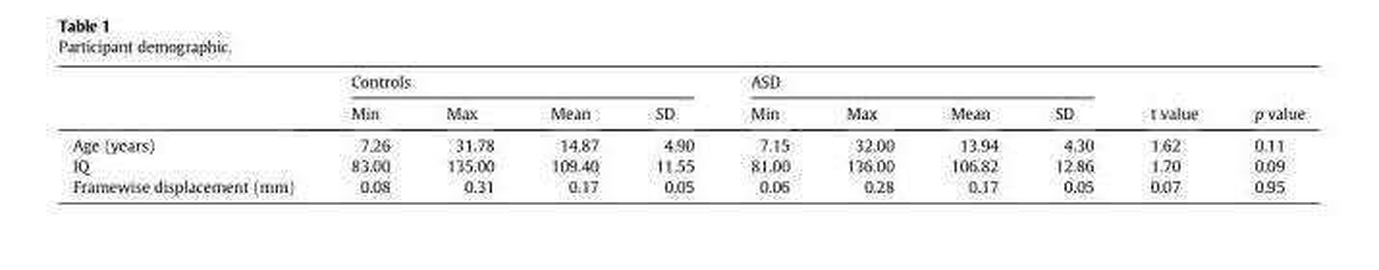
<table><thead><tr><td rowspan="2"></td><td colspan="4">Controls</td><td colspan="4">ASD</td><td rowspan="2">t value</td><td rowspan="2">p value</td></tr><tr><td>Min</td><td>Max</td><td>Mean</td><td>SD</td><td>Min</td><td>Max</td><td>Mean</td><td>SD</td></tr></thead><tbody><tr><td>Age (years)</td><td>7.26</td><td>31.78</td><td>14.87</td><td>4.90</td><td>7.15</td><td>32.00</td><td>13.94</td><td>4.30</td><td>1.62</td><td>0.11</td></tr><tr><td>IQ</td><td>83.00</td><td>135.00</td><td>109.40</td><td>11.55</td><td>81.00</td><td>136.00</td><td>106.82</td><td>12.86</td><td>1.70</td><td>0.09</td></tr><tr><td>Framewise displacement (mm)</td><td>0.08</td><td>0.31</td><td>0.17</td><td>0.05</td><td>0.06</td><td>0.28</td><td>0.17</td><td>0.05</td><td>0.07</td><td>0.95</td></tr></tbody></table>